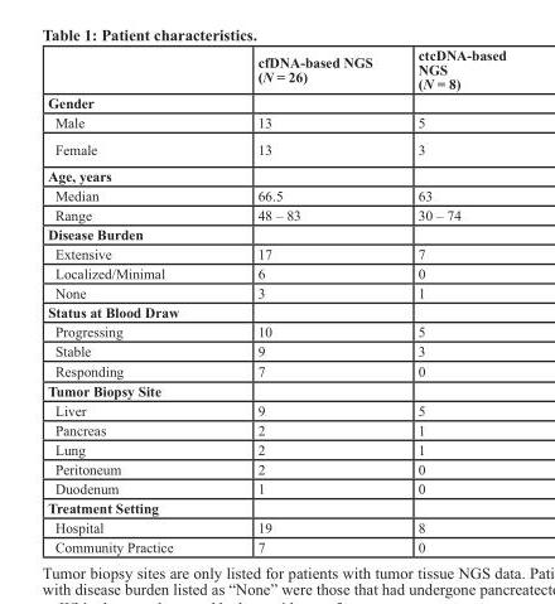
<table><thead><tr><td></td><td>cfDNA-based NGS (N = 26)</td><td>ctcDNA-based NGS (N = 8)</td></tr></thead><tbody><tr><td colspan="3">Gender</td></tr><tr><td>Male</td><td>13</td><td>5</td></tr><tr><td>Female</td><td>13</td><td>3</td></tr><tr><td colspan="3">Age, years</td></tr><tr><td>Median</td><td>66.5</td><td>63</td></tr><tr><td>Range</td><td>48 – 83</td><td>30 – 74</td></tr><tr><td colspan="3">Disease Burden</td></tr><tr><td>Extensive</td><td>17</td><td>7</td></tr><tr><td>Localized/Minimal</td><td>6</td><td>0</td></tr><tr><td>None</td><td>3</td><td>1</td></tr><tr><td colspan="3">Status at Blood Draw</td></tr><tr><td>Progressing</td><td>10</td><td>5</td></tr><tr><td>Stable</td><td>9</td><td>3</td></tr><tr><td>Responding</td><td>7</td><td>0</td></tr><tr><td colspan="3">Tumor Biopsy Site</td></tr><tr><td>Liver</td><td>9</td><td>5</td></tr><tr><td>Pancreas</td><td>2</td><td>1</td></tr><tr><td>Lung</td><td>2</td><td>1</td></tr><tr><td>Peritoneum</td><td>2</td><td>0</td></tr><tr><td>Duodenum</td><td>1</td><td>0</td></tr><tr><td colspan="3">Treatment Setting</td></tr><tr><td>Hospital</td><td>19</td><td>8</td></tr><tr><td>Community Practice</td><td>7</td><td>0</td></tr></tbody></table>